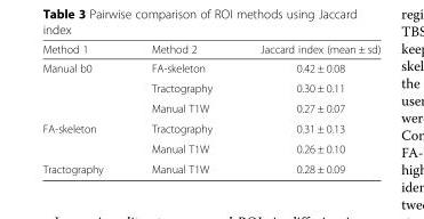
<table><thead><tr><td>Method 1</td><td>Method 2</td><td>Jaccard index (mean ± sd)</td></tr></thead><tbody><tr><td rowspan="3">Manual b0</td><td>FA-skeleton</td><td>0.42 ± 0.08</td></tr><tr><td>Tractography</td><td>0.30 ± 0.11</td></tr><tr><td>Manual T1W</td><td>0.27 ± 0.07</td></tr><tr><td rowspan="2">FA-skeleton</td><td>Tractography</td><td>0.31 ± 0.13</td></tr><tr><td>Manual T1W</td><td>0.26 ± 0.10</td></tr><tr><td>Tractography</td><td>Manual T1W</td><td>0.28 ± 0.09</td></tr></tbody></table>